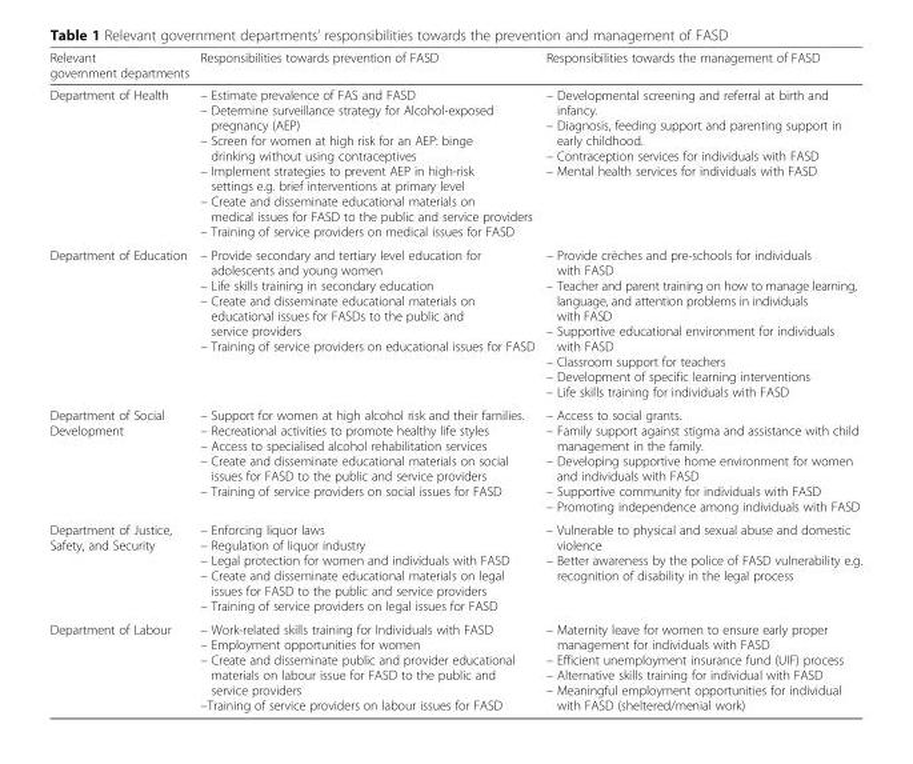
<table><thead><tr><td>Relevant government departments</td><td>Responsibilities towards prevention of FASD</td><td>Responsibilities towards the management of FASD</td></tr></thead><tbody><tr><td>Department of Health</td><td>– Estimate prevalence of FAS and FASD – Determine surveillance strategy for Alcohol-exposed pregnancy (AEP) – Screen for women at high risk for an AEP: binge drinking without using contraceptives – Implement strategies to prevent AEP in high-risk settings e.g. brief interventions at primary level – Create and disseminate educational materials on medical issues for FASD to the public and service providers – Training of service providers on medical issues for FASD</td><td>– Developmental screening and referral at birth and infancy. – Diagnosis, feeding support and parenting support in early childhood. – Contraception services for individuals with FASD – Mental health services for individuals with FASD</td></tr><tr><td>Department of Education</td><td>– Provide secondary and tertiary level education for adolescents and young women – Life skills training in secondary education – Create and disseminate educational materials on educational issues for FASDs to the public and service providers – Training of service providers on educational issues for FASD</td><td>– Provide crèches and pre-schools for individuals with FASD – Teacher and parent training on how to manage learning, language, and attention problems in individuals with FASD – Supportive educational environment for individuals with FASD – Classroom support for teachers – Development of specific learning interventions – Life skills training for individuals with FASD</td></tr><tr><td>Department of Social Development</td><td>– Support for women at high alcohol risk and their families. – Recreational activities to promote healthy life styles – Access to specialised alcohol rehabilitation services – Create and disseminate educational materials on social issues for FASD to the public and service providers – Training of service providers on social issues for FASD</td><td>– Access to social grants. – Family support against stigma and assistance with child management in the family. – Developing supportive home environment for women and individuals with FASD – Supportive community for individuals with FASD – Promoting independence among individuals with FASD</td></tr><tr><td>Department of Justice, Safety, and Security</td><td>– Enforcing liquor laws – Regulation of liquor industry – Legal protection for women and individuals with FASD – Create and disseminate educational materials on legal issues for FASD to the public and service providers – Training of service providers on legal issues for FASD</td><td>– Vulnerable to physical and sexual abuse and domestic violence – Better awareness by the police of FASD vulnerability e.g. recognition of disability in the legal process</td></tr><tr><td>Department of Labour</td><td>– Work-related skills training for Individuals with FASD – Employment opportunities for women – Create and disseminate public and provider educational materials on labour issue for FASD to the public and service providers –Training of service providers on labour issues for FASD</td><td>– Maternity leave for women to ensure early proper management for individuals with FASD – Efficient unemployment insurance fund (UIF) process – Alternative skills training for individual with FASD – Meaningful employment opportunities for individual with FASD (sheltered/menial work)</td></tr></tbody></table>